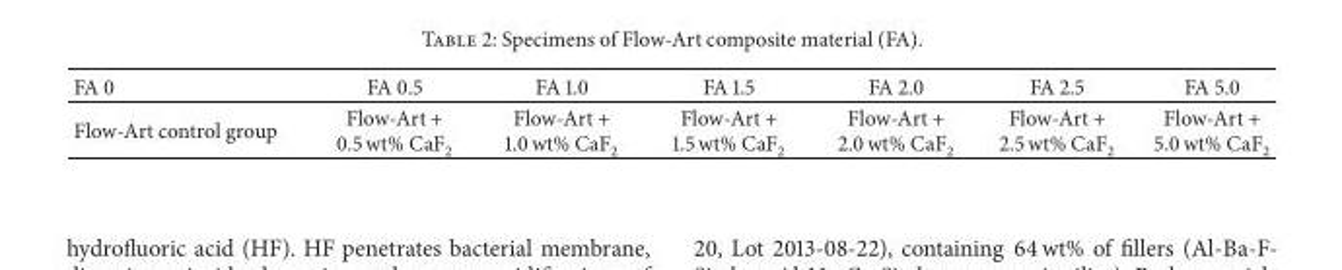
<table><thead><tr><td>FA 0</td><td>FA 0.5</td><td>FA 1.0</td><td>FA 1.5</td><td>FA 2.0</td><td>FA 2.5</td><td>FA 5.0</td></tr></thead><tbody><tr><td>Flow-Art control group</td><td>Flow-Art + 0.5 wt% CaF<sub>2</sub></td><td>Flow-Art + 1.0 wt% CaF<sub>2</sub></td><td>Flow-Art + 1.5 wt% CaF<sub>2</sub></td><td>Flow-Art + 2.0 wt% CaF<sub>2</sub></td><td>Flow-Art + 2.5 wt% CaF<sub>2</sub></td><td>Flow-Art + 5.0 wt% CaF<sub>2</sub></td></tr></tbody></table>